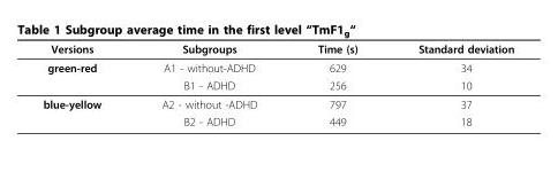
<table><thead><tr><td>Versions</td><td>Subgroups</td><td>Time (s)</td><td>Standard deviation</td></tr></thead><tbody><tr><td rowspan="2">green-red</td><td>A1 - without-ADHD</td><td>629</td><td>34</td></tr><tr><td>B1 - ADHD</td><td>256</td><td>10</td></tr><tr><td rowspan="2">blue-yellow</td><td>A2 - without -ADHD</td><td>797</td><td>37</td></tr><tr><td>B2 - ADHD</td><td>449</td><td>18</td></tr></tbody></table>